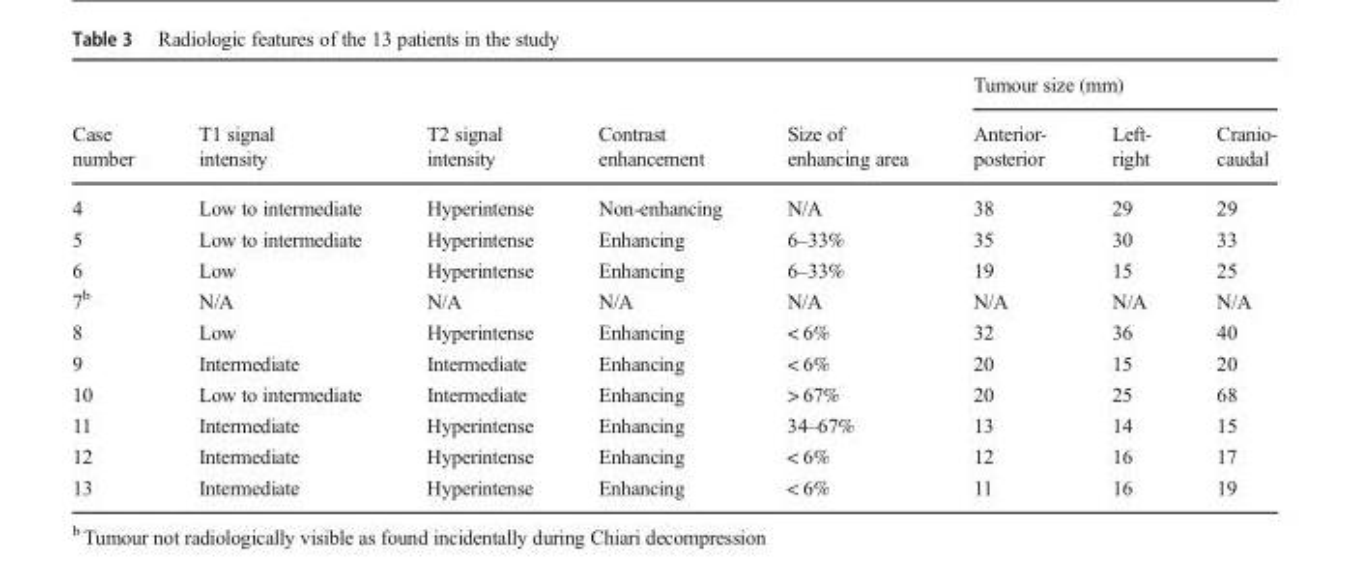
<table><thead><tr><td rowspan="2">Case number</td><td rowspan="2">T1 signal intensity</td><td rowspan="2">T2 signal intensity</td><td rowspan="2">Contrast enhancement</td><td rowspan="2">Size of enhancing area</td><td colspan="3">Tumour size (mm)</td></tr><tr><td>Anterior- posterior</td><td>Left- right</td><td>Cranio- caudal</td></tr></thead><tbody><tr><td>4</td><td>Low to intermediate</td><td>Hyperintense</td><td>Non-enhancing</td><td>N/A</td><td>38</td><td>29</td><td>29</td></tr><tr><td>5</td><td>Low to intermediate</td><td>Hyperintense</td><td>Enhancing</td><td>6–33%</td><td>35</td><td>30</td><td>33</td></tr><tr><td>6</td><td>Low</td><td>Hyperintense</td><td>Enhancing</td><td>6–33%</td><td>19</td><td>15</td><td>25</td></tr><tr><td>7<sup>b</sup></td><td>N/A</td><td>N/A</td><td>N/A</td><td>N/A</td><td>N/A</td><td>N/A</td><td>N/A</td></tr><tr><td>8</td><td>Low</td><td>Hyperintense</td><td>Enhancing</td><td>&lt; 6%</td><td>32</td><td>36</td><td>40</td></tr><tr><td>9</td><td>Intermediate</td><td>Intermediate</td><td>Enhancing</td><td>&lt; 6%</td><td>20</td><td>15</td><td>20</td></tr><tr><td>10</td><td>Low to intermediate</td><td>Intermediate</td><td>Enhancing</td><td>&gt; 67%</td><td>20</td><td>25</td><td>68</td></tr><tr><td>11</td><td>Intermediate</td><td>Hyperintense</td><td>Enhancing</td><td>34–67%</td><td>13</td><td>14</td><td>15</td></tr><tr><td>12</td><td>Intermediate</td><td>Hyperintense</td><td>Enhancing</td><td>&lt; 6%</td><td>12</td><td>16</td><td>17</td></tr><tr><td>13</td><td>Intermediate</td><td>Hyperintense</td><td>Enhancing</td><td>&lt; 6%</td><td>11</td><td>16</td><td>19</td></tr></tbody></table>